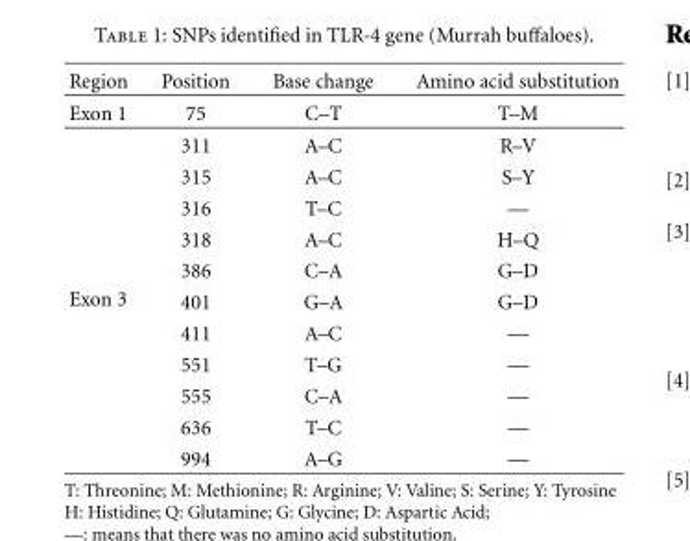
<table><thead><tr><td>Region</td><td>Position</td><td>Base change</td><td>Amino acid substitution</td></tr></thead><tbody><tr><td>Exon 1</td><td>75</td><td>C–T</td><td>T–M</td></tr><tr><td rowspan="11">Exon 3</td><td>311</td><td>A–C</td><td>R–V</td></tr><tr><td>315</td><td>A–C</td><td>S–Y</td></tr><tr><td>316</td><td>T–C</td><td>—</td></tr><tr><td>318</td><td>A–C</td><td>H–Q</td></tr><tr><td>386</td><td>C–A</td><td>G–D</td></tr><tr><td>401</td><td>G–A</td><td>G–D</td></tr><tr><td>411</td><td>A–C</td><td>—</td></tr><tr><td>551</td><td>T–G</td><td>—</td></tr><tr><td>555</td><td>C–A</td><td>—</td></tr><tr><td>636</td><td>T–C</td><td>—</td></tr><tr><td>994</td><td>A–G</td><td>—</td></tr></tbody></table>